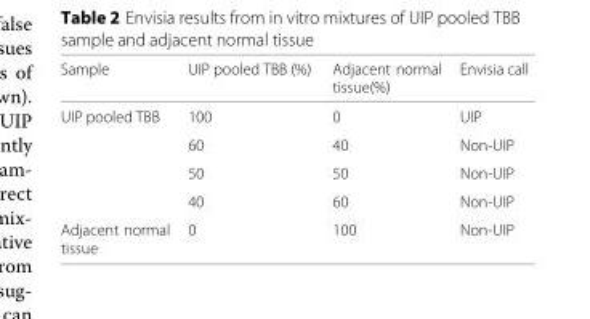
<table><thead><tr><td>Sample</td><td>UIP pooled TBB (%)</td><td>Adjacent normal tissue(%)</td><td>Envisia call</td></tr></thead><tbody><tr><td rowspan="4">UIP pooled TBB</td><td>100</td><td>0</td><td>UIP</td></tr><tr><td>60</td><td>40</td><td>Non-UIP</td></tr><tr><td>50</td><td>50</td><td>Non-UIP</td></tr><tr><td>40</td><td>60</td><td>Non-UIP</td></tr><tr><td>Adjacent normal tissue</td><td>0</td><td>100</td><td>Non-UIP</td></tr></tbody></table>